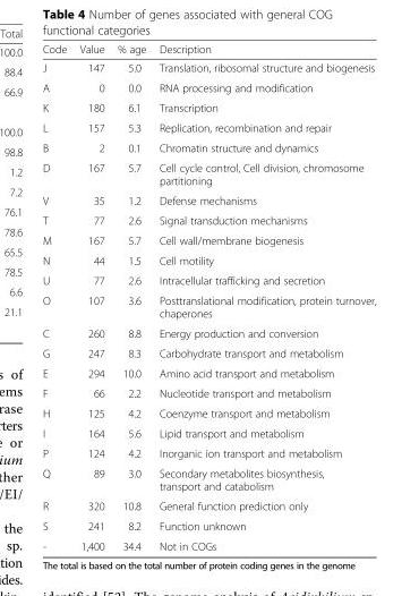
<table><thead><tr><td>Code</td><td>Value</td><td>% age</td><td>Description</td></tr></thead><tbody><tr><td>J</td><td>147</td><td>5.0</td><td>Translation, ribosomal structure and biogenesis</td></tr><tr><td>A</td><td>0</td><td>0.0</td><td>RNA processing and modification</td></tr><tr><td>K</td><td>180</td><td>6.1</td><td>Transcription</td></tr><tr><td>L</td><td>157</td><td>5.3</td><td>Replication, recombination and repair</td></tr><tr><td>B</td><td>2</td><td>0.1</td><td>Chromatin structure and dynamics</td></tr><tr><td>D</td><td>167</td><td>5.7</td><td>Cell cycle control, Cell division, chromosome partitioning</td></tr><tr><td>V</td><td>35</td><td>1.2</td><td>Defense mechanisms</td></tr><tr><td>T</td><td>77</td><td>2.6</td><td>Signal transduction mechanisms</td></tr><tr><td>M</td><td>167</td><td>5.7</td><td>Cell wall/membrane biogenesis</td></tr><tr><td>N</td><td>44</td><td>1.5</td><td>Cell motility</td></tr><tr><td>U</td><td>77</td><td>2.6</td><td>Intracellular trafficking and secretion</td></tr><tr><td>O</td><td>107</td><td>3.6</td><td>Posttranslational modification, protein turnover, chaperones</td></tr><tr><td>C</td><td>260</td><td>8.8</td><td>Energy production and conversion</td></tr><tr><td>G</td><td>247</td><td>8.3</td><td>Carbohydrate transport and metabolism</td></tr><tr><td>E</td><td>294</td><td>10.0</td><td>Amino acid transport and metabolism</td></tr><tr><td>F</td><td>66</td><td>2.2</td><td>Nucleotide transport and metabolism</td></tr><tr><td>H</td><td>125</td><td>4.2</td><td>Coenzyme transport and metabolism</td></tr><tr><td>I</td><td>164</td><td>5.6</td><td>Lipid transport and metabolism</td></tr><tr><td>P</td><td>124</td><td>4.2</td><td>Inorganic ion transport and metabolism</td></tr><tr><td>Q</td><td>89</td><td>3.0</td><td>Secondary metabolites biosynthesis, transport and catabolism</td></tr><tr><td>R</td><td>320</td><td>10.8</td><td>General function prediction only</td></tr><tr><td>S</td><td>241</td><td>8.2</td><td>Function unknown</td></tr><tr><td>-</td><td>1,400</td><td>34.4</td><td>Not in COGs</td></tr></tbody></table>